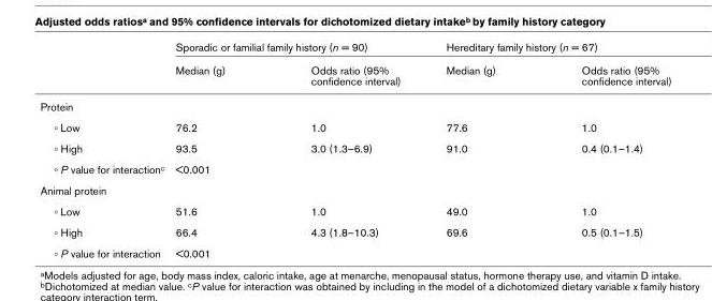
<table><thead><tr><td rowspan="2"></td><td colspan="2">Sporadic or familial family history (n = 90)</td><td colspan="2">Hereditary family history (n = 67)</td></tr><tr><td>Median (g)</td><td>Odds ratio (95% confidence interval)</td><td>Median (g)</td><td>Odds ratio (95% confidence interval)</td></tr></thead><tbody><tr><td colspan="5">Protein</td></tr><tr><td>∘ Low</td><td>76.2</td><td>1.0</td><td>77.6</td><td>1.0</td></tr><tr><td>∘ High</td><td>93.5</td><td>3.0 (1.3–6.9)</td><td>91.0</td><td>0.4 (0.1–1.4)</td></tr><tr><td>∘ P value for interaction<sup>c</sup></td><td>&lt;0.001</td><td></td><td></td><td></td></tr><tr><td colspan="5">Animal protein</td></tr><tr><td>∘ Low</td><td>51.6</td><td>1.0</td><td>49.0</td><td>1.0</td></tr><tr><td>∘ High</td><td>66.4</td><td>4.3 (1.8–10.3)</td><td>69.6</td><td>0.5 (0.1–1.5)</td></tr><tr><td>∘ P value for interaction</td><td>&lt;0.001</td><td></td><td></td><td></td></tr></tbody></table>